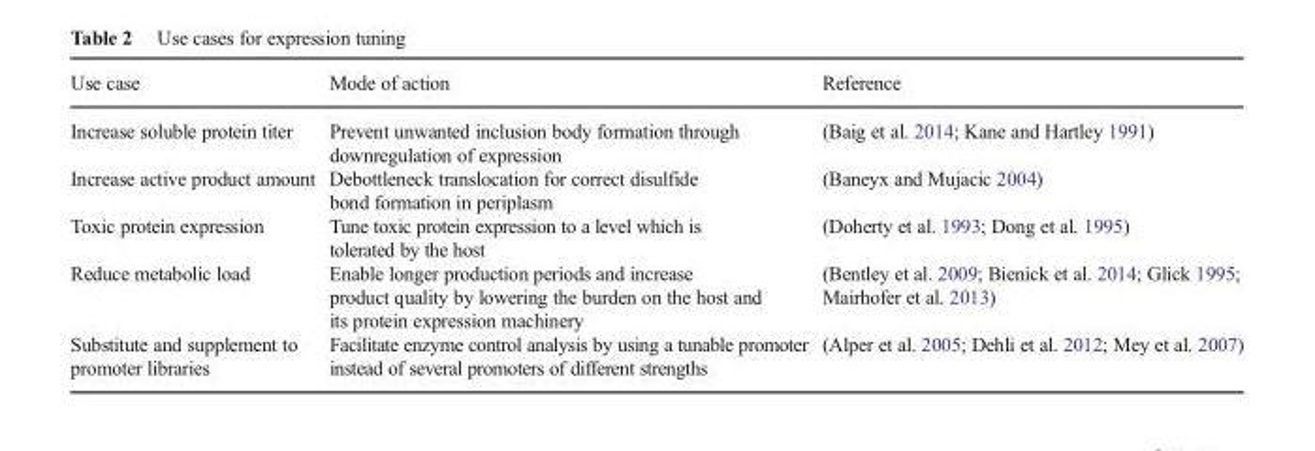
<table><thead><tr><td>Use case</td><td>Mode of action</td><td>Reference</td></tr></thead><tbody><tr><td>Increase soluble protein titer</td><td>Prevent unwanted inclusion body formation through downregulation of expression</td><td>(Baig et al. 2014; Kane and Hartley 1991)</td></tr><tr><td>Increase active product amount</td><td>Debottleneck translocation for correct disulfide bond formation in periplasm</td><td>(Baneyx and Mujacic 2004)</td></tr><tr><td>Toxic protein expression</td><td>Tune toxic protein expression to a level which is tolerated by the host</td><td>(Doherty et al. 1993; Dong et al. 1995)</td></tr><tr><td>Reduce metabolic load</td><td>Enable longer production periods and increase product quality by lowering the burden on the host and its protein expression machinery</td><td>(Bentley et al. 2009; Bienick et al. 2014; Glick 1995; Mairhofer et al. 2013)</td></tr><tr><td>Substitute and supplement to promoter libraries</td><td>Facilitate enzyme control analysis by using a tunable promoter instead of several promoters of different strengths</td><td>(Alper et al. 2005; Dehli et al. 2012; Mey et al. 2007)</td></tr></tbody></table>